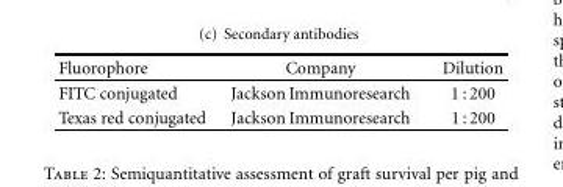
<table><thead><tr><td>Fluorophore</td><td>Company</td><td>Dilution</td></tr></thead><tbody><tr><td>FITC conjugated</td><td>Jackson Immunoresearch</td><td>1 : 200</td></tr><tr><td>Texas red conjugated</td><td>Jackson Immunoresearch</td><td>1 : 200</td></tr></tbody></table>